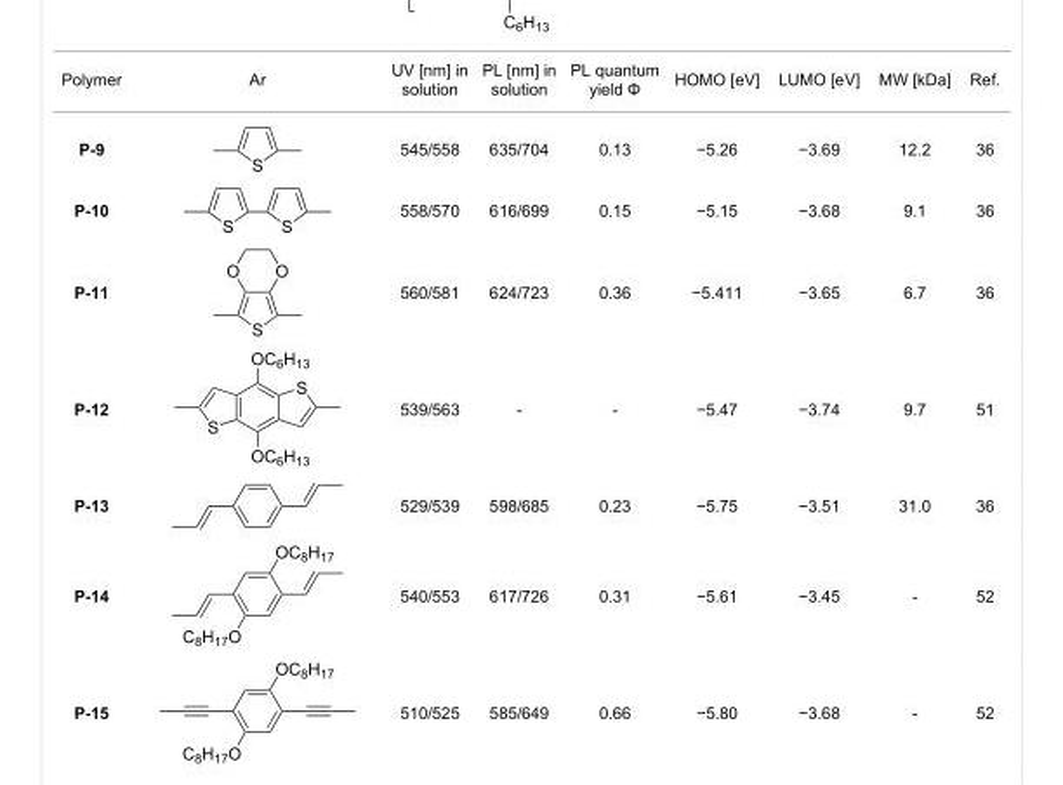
<table><tbody><tr><td>Polymer</td><td>Ar</td><td>UV [nm] in solution</td><td>PL [nm] in solution</td><td>PL quantum yield Φ</td><td>HOMO [eV]</td><td>LUMO [eV]</td><td>MW [kDa]</td><td>Ref.</td></tr><tr><td>P-9</td><td></td><td>545/558</td><td>635/704</td><td>0.13</td><td>−5.26</td><td>−3.69</td><td>12.2</td><td>36</td></tr><tr><td>P-10</td><td></td><td>558/570</td><td>616/699</td><td>0.15</td><td>−5.15</td><td>−3.68</td><td>9.1</td><td>36</td></tr><tr><td>P-11</td><td></td><td>560/581</td><td>624/723</td><td>0.36</td><td>−5.411</td><td>−3.65</td><td>6.7</td><td>36</td></tr><tr><td>P-12</td><td></td><td>539/563</td><td>-</td><td>-</td><td>−5.47</td><td>−3.74</td><td>9.7</td><td>51</td></tr><tr><td>P-13</td><td></td><td>529/539</td><td>598/685</td><td>0.23</td><td>−5.75</td><td>−3.51</td><td>31.0</td><td>36</td></tr><tr><td>P-14</td><td></td><td>540/553</td><td>617/726</td><td>0.31</td><td>−5.61</td><td>−3.45</td><td>-</td><td>52</td></tr><tr><td>P-15</td><td></td><td>510/525</td><td>585/649</td><td>0.66</td><td>−5.80</td><td>−3.68</td><td>-</td><td>52</td></tr></tbody></table>